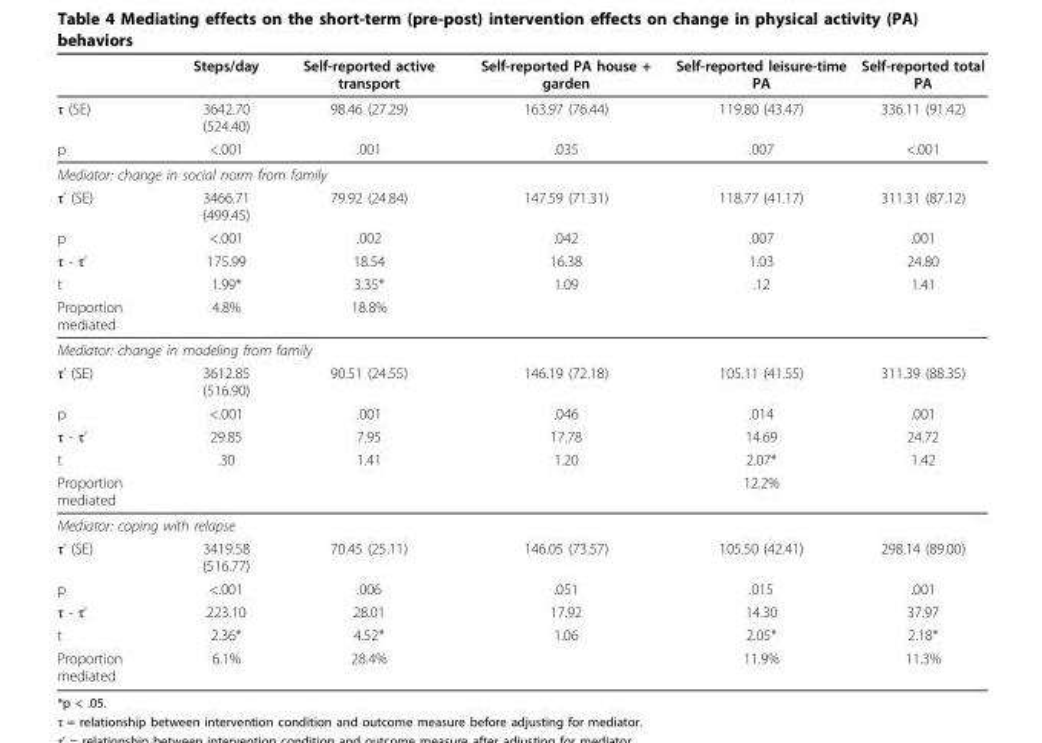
<table><thead><tr><td></td><td>Steps/day</td><td>Self-reported active transport</td><td>Self-reported PA house + garden</td><td>Self-reported leisure-time PA</td><td>Self-reported total PA</td></tr></thead><tbody><tr><td>τ (SE)</td><td>3642.70 (524.40)</td><td>98.46 (27.29)</td><td>163.97 (76.44)</td><td>119.80 (43.47)</td><td>336.11 (91.42)</td></tr><tr><td>p</td><td>&lt;.001</td><td>.001</td><td>.035</td><td>.007</td><td>&lt;.001</td></tr><tr><td colspan="6">Mediator: change in social norm from family</td></tr><tr><td>τ’ (SE)</td><td>3466.71 (499.45)</td><td>79.92 (24.84)</td><td>147.59 (71.31)</td><td>118.77 (41.17)</td><td>311.31 (87.12)</td></tr><tr><td>p</td><td>&lt;.001</td><td>.002</td><td>.042</td><td>.007</td><td>.001</td></tr><tr><td>τ - τ’</td><td>175.99</td><td>18.54</td><td>16.38</td><td>1.03</td><td>24.80</td></tr><tr><td>t</td><td>1.99*</td><td>3.35*</td><td>1.09</td><td>.12</td><td>1.41</td></tr><tr><td>Proportion mediated</td><td>4.8%</td><td>18.8%</td><td></td><td></td><td></td></tr><tr><td colspan="6">Mediator: change in modeling from family</td></tr><tr><td>τ’ (SE)</td><td>3612.85 (516.90)</td><td>90.51 (24.55)</td><td>146.19 (72.18)</td><td>105.11 (41.55)</td><td>311.39 (88.35)</td></tr><tr><td>p</td><td>&lt;.001</td><td>.001</td><td>.046</td><td>.014</td><td>.001</td></tr><tr><td>τ - τ’</td><td>29.85</td><td>7.95</td><td>17.78</td><td>14.69</td><td>24.72</td></tr><tr><td>t</td><td>.30</td><td>1.41</td><td>1.20</td><td>2.07*</td><td>1.42</td></tr><tr><td>Proportion mediated</td><td></td><td></td><td></td><td>12.2%</td><td></td></tr><tr><td colspan="6">Mediator: coping with relapse</td></tr><tr><td>τ’ (SE)</td><td>3419.58 (516.77)</td><td>70.45 (25.11)</td><td>146.05 (73.57)</td><td>105.50 (42.41)</td><td>298.14 (89.00)</td></tr><tr><td>p</td><td>&lt;.001</td><td>.006</td><td>.051</td><td>.015</td><td>.001</td></tr><tr><td>τ - τ’</td><td>223.10</td><td>28.01</td><td>17.92</td><td>14.30</td><td>37.97</td></tr><tr><td>t</td><td>2.36*</td><td>4.52*</td><td>1.06</td><td>2.05*</td><td>2.18*</td></tr><tr><td>Proportion mediated</td><td>6.1%</td><td>28.4%</td><td></td><td>11.9%</td><td>11.3%</td></tr></tbody></table>